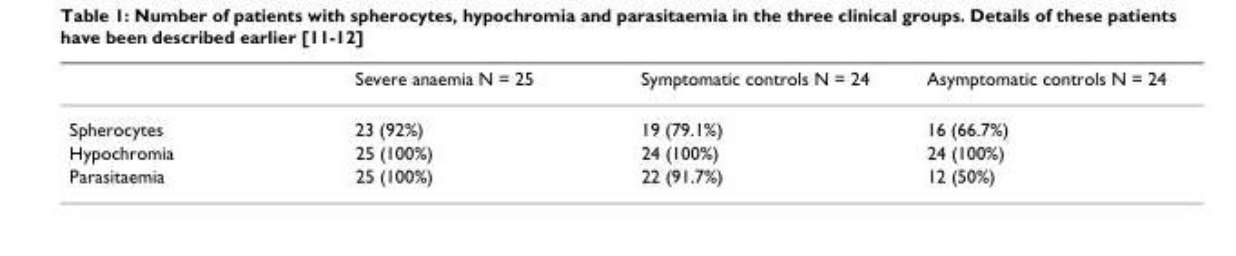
<table><thead><tr><td></td><td>Severe anaemia N = 25</td><td>Symptomatic controls N = 24</td><td>Asymptomatic controls N = 24</td></tr></thead><tbody><tr><td>Spherocytes</td><td>23 (92%)</td><td>19 (79.1%)</td><td>16 (66.7%)</td></tr><tr><td>Hypochromia</td><td>25 (100%)</td><td>24 (100%)</td><td>24 (100%)</td></tr><tr><td>Parasitaemia</td><td>25 (100%)</td><td>22 (91.7%)</td><td>12 (50%)</td></tr></tbody></table>